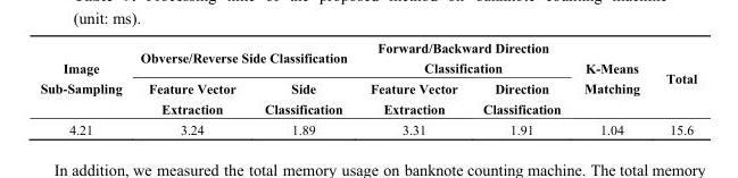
<table><thead><tr><td rowspan="2">Image Sub-Sampling</td><td colspan="2">Obverse/Reverse Side Classification</td><td colspan="2">Forward/Backward Direction Classification</td><td rowspan="2">K-Means Matching</td><td rowspan="2">Total</td></tr><tr><td>Feature Vector Extraction</td><td>Side Classification</td><td>Feature Vector Extraction</td><td>Direction Classification</td></tr></thead><tbody><tr><td>4.21</td><td>3.24</td><td>1.89</td><td>3.31</td><td>1.91</td><td>1.04</td><td>15.6</td></tr></tbody></table>